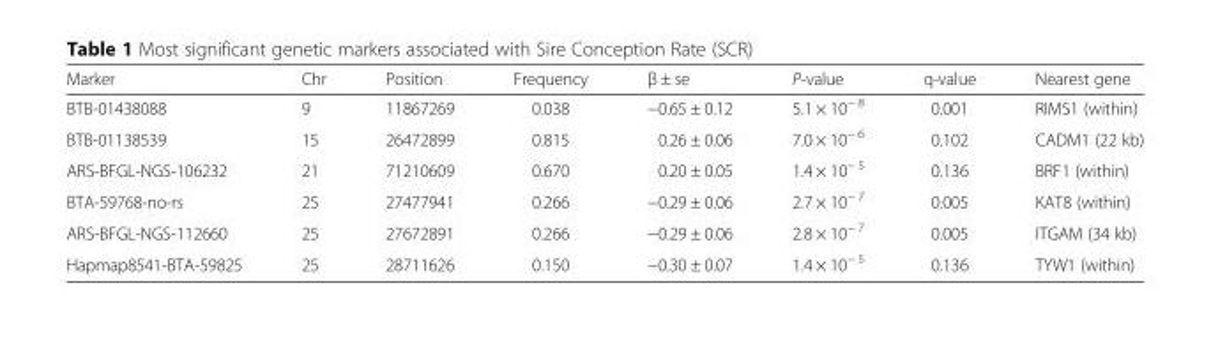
<table><thead><tr><td>Marker</td><td>Chr</td><td>Position</td><td>Frequency</td><td>β ± se</td><td>P-value</td><td>q-value</td><td>Nearest gene</td></tr></thead><tbody><tr><td>BTB-01438088</td><td>9</td><td>11867269</td><td>0.038</td><td>−0.65 ± 0.12</td><td>5.1 × 10<sup>− 8</sup></td><td>0.001</td><td>RIMS1 (within)</td></tr><tr><td>BTB-01138539</td><td>15</td><td>26472899</td><td>0.815</td><td>0.26 ± 0.06</td><td>7.0 × 10<sup>− 6</sup></td><td>0.102</td><td>CADM1 (22 kb)</td></tr><tr><td>ARS-BFGL-NGS-106232</td><td>21</td><td>71210609</td><td>0.670</td><td>0.20 ± 0.05</td><td>1.4 × 10<sup>− 5</sup></td><td>0.136</td><td>BRF1 (within)</td></tr><tr><td>BTA-59768-no-rs</td><td>25</td><td>27477941</td><td>0.266</td><td>−0.29 ± 0.06</td><td>2.7 × 10<sup>− 7</sup></td><td>0.005</td><td>KAT8 (within)</td></tr><tr><td>ARS-BFGL-NGS-112660</td><td>25</td><td>27672891</td><td>0.266</td><td>−0.29 ± 0.06</td><td>2.8 × 10<sup>− 7</sup></td><td>0.005</td><td>ITGAM (34 kb)</td></tr><tr><td>Hapmap8541-BTA-59825</td><td>25</td><td>28711626</td><td>0.150</td><td>−0.30 ± 0.07</td><td>1.4 × 10<sup>− 5</sup></td><td>0.136</td><td>TYW1 (within)</td></tr></tbody></table>